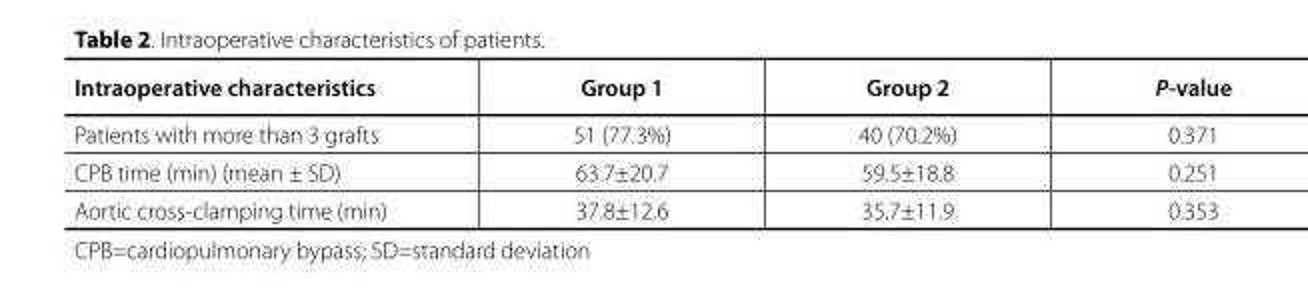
<table><thead><tr><td>Intraoperative characteristics</td><td>Group 1</td><td>Group 2</td><td>P-value</td></tr></thead><tbody><tr><td>Patients with more than 3 grafts</td><td>51 (77.3%)</td><td>40 (70.2%)</td><td>0.371</td></tr><tr><td>CPB time (min) (mean ± SD)</td><td>63.7±20.7</td><td>59.5±18.8</td><td>0.251</td></tr><tr><td>Aortic cross-clamping time (min)</td><td>37.8±12.6</td><td>35.7±11.9</td><td>0.353</td></tr></tbody></table>